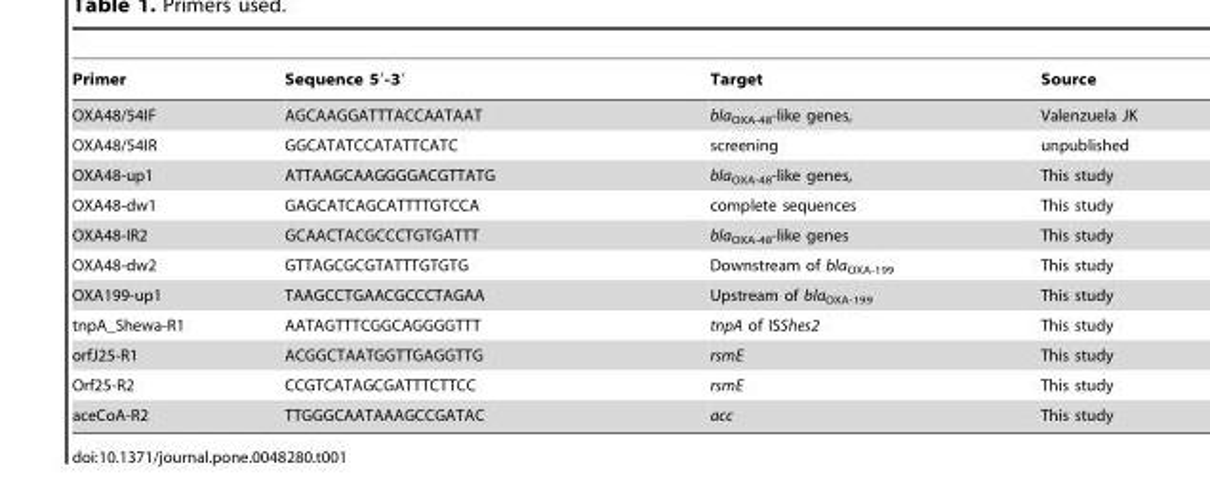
<table><thead><tr><td>Primer</td><td>Sequence 5′-3′</td><td>Target</td><td>Source</td></tr></thead><tbody><tr><td>OXA48/54IF</td><td>AGCAAGGATTTACCAATAAT</td><td>bla<sub>OXA-48</sub>-like genes,</td><td>Valenzuela JK</td></tr><tr><td>OXA48/54IR</td><td>GGCATATCCATATTCATC</td><td>screening</td><td>unpublished</td></tr><tr><td>OXA48-up1</td><td>ATTAAGCAAGGGGACGTTATG</td><td>bla<sub>OXA-48</sub>-like genes,</td><td>This study</td></tr><tr><td>OXA48-dw1</td><td>GAGCATCAGCATTTTGTCCA</td><td>complete sequences</td><td>This study</td></tr><tr><td>OXA48-IR2</td><td>GCAACTACGCCCTGTGATTT</td><td>bla<sub>OXA-48</sub>-like genes</td><td>This study</td></tr><tr><td>OXA48-dw2</td><td>GTTAGCGCGTATTTGTGTG</td><td>Downstream of bla<sub>OXA-199</sub></td><td>This study</td></tr><tr><td>OXA199-up1</td><td>TAAGCCTGAACGCCCTAGAA</td><td>Upstream of bla<sub>OXA-199</sub></td><td>This study</td></tr><tr><td>tnpA_Shewa-R1</td><td>AATAGTTTCGGCAGGGGTTT</td><td>tnpA of ISShes2</td><td>This study</td></tr><tr><td>orfJ25-R1</td><td>ACGGCTAATGGTTGAGGTTG</td><td>rsmE</td><td>This study</td></tr><tr><td>Orf25-R2</td><td>CCGTCATAGCGATTTCTTCC</td><td>rsmE</td><td>This study</td></tr><tr><td>aceCoA-R2</td><td>TTGGGCAATAAAGCCGATAC</td><td>acc</td><td>This study</td></tr></tbody></table>